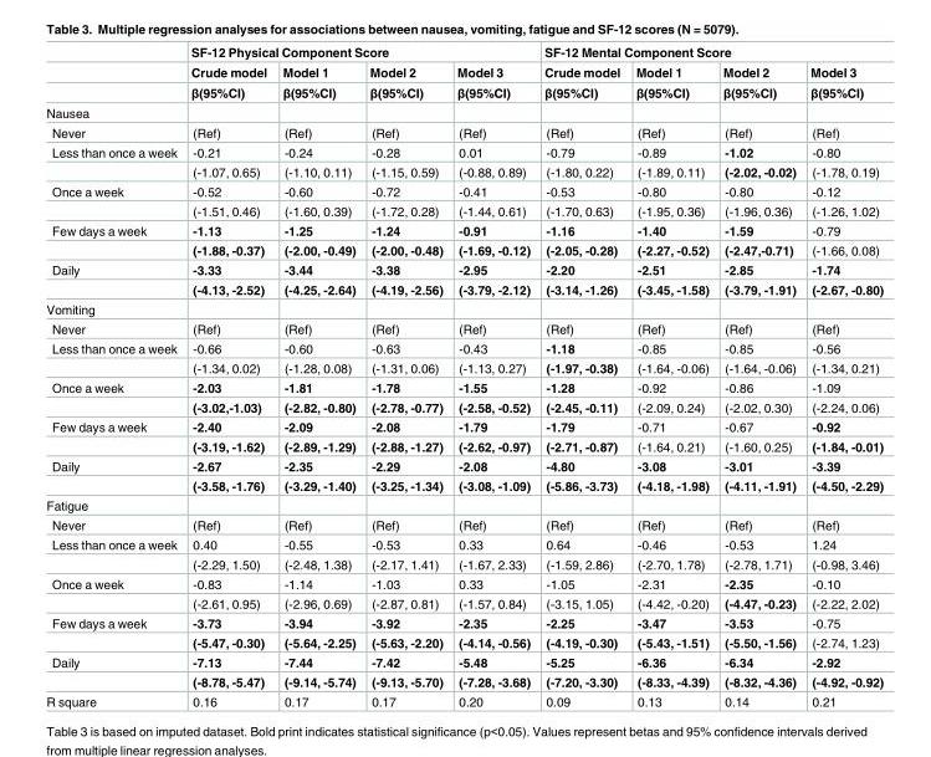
<table><thead><tr><td rowspan="3"></td><td colspan="4">SF-12 Physical Component Score</td><td colspan="4">SF-12 Mental Component Score</td></tr><tr><td rowspan="2">Crude model β(95%CI)</td><td rowspan="2">Model 1 β(95%CI)</td><td rowspan="2">Model 2 β(95%CI)</td><td rowspan="2">Model 3 β(95%CI)</td><td rowspan="2">Crude model β(95%CI)</td><td rowspan="2">Model 1 β(95%CI)</td><td rowspan="2">Model 2 β(95%CI)</td><td rowspan="2">Model 3 β(95%CI)</td></tr><tr></tr></thead><tbody><tr><td colspan="9">Nausea</td></tr><tr><td>Never</td><td>(Ref)</td><td>(Ref)</td><td>(Ref)</td><td>(Ref)</td><td>(Ref)</td><td>(Ref)</td><td>(Ref)</td><td>(Ref)</td></tr><tr><td rowspan="2">Less than once a week</td><td>-0.21</td><td>-0.24</td><td>-0.28</td><td>0.01</td><td>-0.79</td><td>-0.89</td><td>-1.02</td><td>-0.80</td></tr><tr><td>(-1.07, 0.65)</td><td>(-1.10, 0.11)</td><td>(-1.15, 0.59)</td><td>(-0.88, 0.89)</td><td>(-1.80, 0.22)</td><td>(-1.89, 0.11)</td><td>(-2.02, -0.02)</td><td>(-1.78, 0.19)</td></tr><tr><td rowspan="2">Once a week</td><td>-0.52</td><td>-0.60</td><td>-0.72</td><td>-0.41</td><td>-0.53</td><td>-0.80</td><td>-0.80</td><td>-0.12</td></tr><tr><td>(-1.51, 0.46)</td><td>(-1.60, 0.39)</td><td>(-1.72, 0.28)</td><td>(-1.44, 0.61)</td><td>(-1.70, 0.63)</td><td>(-1.95, 0.36)</td><td>(-1.96, 0.36)</td><td>(-1.26, 1.02)</td></tr><tr><td rowspan="2">Few days a week</td><td>-1.13</td><td>-1.25</td><td>-1.24</td><td>-0.91</td><td>-1.16</td><td>-1.40</td><td>-1.59</td><td>-0.79</td></tr><tr><td>(-1.88, -0.37)</td><td>(-2.00, -0.49)</td><td>(-2.00, -0.48)</td><td>(-1.69, -0.12)</td><td>(-2.05, -0.28)</td><td>(-2.27, -0.52)</td><td>(-2.47,-0.71)</td><td>(-1.66, 0.08)</td></tr><tr><td rowspan="2">Daily</td><td>-3.33</td><td>-3.44</td><td>-3.38</td><td>-2.95</td><td>-2.20</td><td>-2.51</td><td>-2.85</td><td>-1.74</td></tr><tr><td>(-4.13, -2.52)</td><td>(-4.25, -2.64)</td><td>(-4.19, -2.56)</td><td>(-3.79, -2.12)</td><td>(-3.14, -1.26)</td><td>(-3.45, -1.58)</td><td>(-3.79, -1.91)</td><td>(-2.67, -0.80)</td></tr><tr><td colspan="9">Vomiting</td></tr><tr><td>Never</td><td>(Ref)</td><td>(Ref)</td><td>(Ref)</td><td>(Ref)</td><td>(Ref)</td><td>(Ref)</td><td>(Ref)</td><td>(Ref)</td></tr><tr><td rowspan="2">Less than once a week</td><td>-0.66</td><td>-0.60</td><td>-0.63</td><td>-0.43</td><td>-1.18</td><td>-0.85</td><td>-0.85</td><td>-0.56</td></tr><tr><td>(-1.34, 0.02)</td><td>(-1.28, 0.08)</td><td>(-1.31, 0.06)</td><td>(-1.13, 0.27)</td><td>(-1.97, -0.38)</td><td>(-1.64, -0.06)</td><td>(-1.64, -0.06)</td><td>(-1.34, 0.21)</td></tr><tr><td rowspan="2">Once a week</td><td>-2.03</td><td>-1.81</td><td>-1.78</td><td>-1.55</td><td>-1.28</td><td>-0.92</td><td>-0.86</td><td>-1.09</td></tr><tr><td>(-3.02,-1.03)</td><td>(-2.82, -0.80)</td><td>(-2.78, -0.77)</td><td>(-2.58, -0.52)</td><td>(-2.45, -0.11)</td><td>(-2.09, 0.24)</td><td>(-2.02, 0.30)</td><td>(-2.24, 0.06)</td></tr><tr><td rowspan="2">Few days a week</td><td>-2.40</td><td>-2.09</td><td>-2.08</td><td>-1.79</td><td>-1.79</td><td>-0.71</td><td>-0.67</td><td>-0.92</td></tr><tr><td>(-3.19, -1.62)</td><td>(-2.89, -1.29)</td><td>(-2.88, -1.27)</td><td>(-2.62, -0.97)</td><td>(-2.71, -0.87)</td><td>(-1.64, 0.21)</td><td>(-1.60, 0.25)</td><td>(-1.84, -0.01)</td></tr><tr><td rowspan="2">Daily</td><td>-2.67</td><td>-2.35</td><td>-2.29</td><td>-2.08</td><td>-4.80</td><td>-3.08</td><td>-3.01</td><td>-3.39</td></tr><tr><td>(-3.58, -1.76)</td><td>(-3.29, -1.40)</td><td>(-3.25, -1.34)</td><td>(-3.08, -1.09)</td><td>(-5.86, -3.73)</td><td>(-4.18, -1.98)</td><td>(-4.11, -1.91)</td><td>(-4.50, -2.29)</td></tr><tr><td colspan="9">Fatigue</td></tr><tr><td>Never</td><td>(Ref)</td><td>(Ref)</td><td>(Ref)</td><td>(Ref)</td><td>(Ref)</td><td>(Ref)</td><td>(Ref)</td><td>(Ref)</td></tr><tr><td rowspan="2">Less than once a week</td><td>0.40</td><td>-0.55</td><td>-0.53</td><td>0.33</td><td>0.64</td><td>-0.46</td><td>-0.53</td><td>1.24</td></tr><tr><td>(-2.29, 1.50)</td><td>(-2.48, 1.38)</td><td>(-2.17, 1.41)</td><td>(-1.67, 2.33)</td><td>(-1.59, 2.86)</td><td>(-2.70, 1.78)</td><td>(-2.78, 1.71)</td><td>(-0.98, 3.46)</td></tr><tr><td rowspan="2">Once a week</td><td>-0.83</td><td>-1.14</td><td>-1.03</td><td>0.33</td><td>-1.05</td><td>-2.31</td><td>-2.35</td><td>-0.10</td></tr><tr><td>(-2.61, 0.95)</td><td>(-2.96, 0.69)</td><td>(-2.87, 0.81)</td><td>(-1.57, 0.84)</td><td>(-3.15, 1.05)</td><td>(-4.42, -0.20)</td><td>(-4.47, -0.23)</td><td>(-2.22, 2.02)</td></tr><tr><td rowspan="2">Few days a week</td><td>-3.73</td><td>-3.94</td><td>-3.92</td><td>-2.35</td><td>-2.25</td><td>-3.47</td><td>-3.53</td><td>-0.75</td></tr><tr><td>(-5.47, -0.30)</td><td>(-5.64, -2.25)</td><td>(-5.63, -2.20)</td><td>(-4.14, -0.56)</td><td>(-4.19, -0.30)</td><td>(-5.43, -1.51)</td><td>(-5.50, -1.56)</td><td>(-2.74, 1.23)</td></tr><tr><td rowspan="2">Daily</td><td>-7.13</td><td>-7.44</td><td>-7.42</td><td>-5.48</td><td>-5.25</td><td>-6.36</td><td>-6.34</td><td>-2.92</td></tr><tr><td>(-8.78, -5.47)</td><td>(-9.14, -5.74)</td><td>(-9.13, -5.70)</td><td>(-7.28, -3.68)</td><td>(-7.20, -3.30)</td><td>(-8.33, -4.39)</td><td>(-8.32, -4.36)</td><td>(-4.92, -0.92)</td></tr><tr><td>R square</td><td>0.16</td><td>0.17</td><td>0.17</td><td>0.20</td><td>0.09</td><td>0.13</td><td>0.14</td><td>0.21</td></tr></tbody></table>